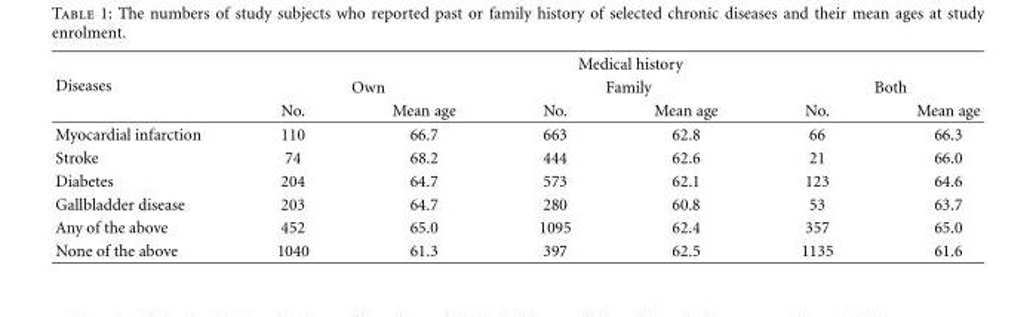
<table><thead><tr><td rowspan="3">Diseases</td><td colspan="6">Medical history</td></tr><tr><td colspan="2">Own</td><td colspan="2">Family</td><td colspan="2">Both</td></tr><tr><td>No.</td><td>Mean age</td><td>No.</td><td>Mean age</td><td>No.</td><td>Mean age</td></tr></thead><tbody><tr><td>Myocardial infarction</td><td>110</td><td>66.7</td><td>663</td><td>62.8</td><td>66</td><td>66.3</td></tr><tr><td>Stroke</td><td>74</td><td>68.2</td><td>444</td><td>62.6</td><td>21</td><td>66.0</td></tr><tr><td>Diabetes</td><td>204</td><td>64.7</td><td>573</td><td>62.1</td><td>123</td><td>64.6</td></tr><tr><td>Gallbladder disease</td><td>203</td><td>64.7</td><td>280</td><td>60.8</td><td>53</td><td>63.7</td></tr><tr><td>Any of the above</td><td>452</td><td>65.0</td><td>1095</td><td>62.4</td><td>357</td><td>65.0</td></tr><tr><td>None of the above</td><td>1040</td><td>61.3</td><td>397</td><td>62.5</td><td>1135</td><td>61.6</td></tr></tbody></table>